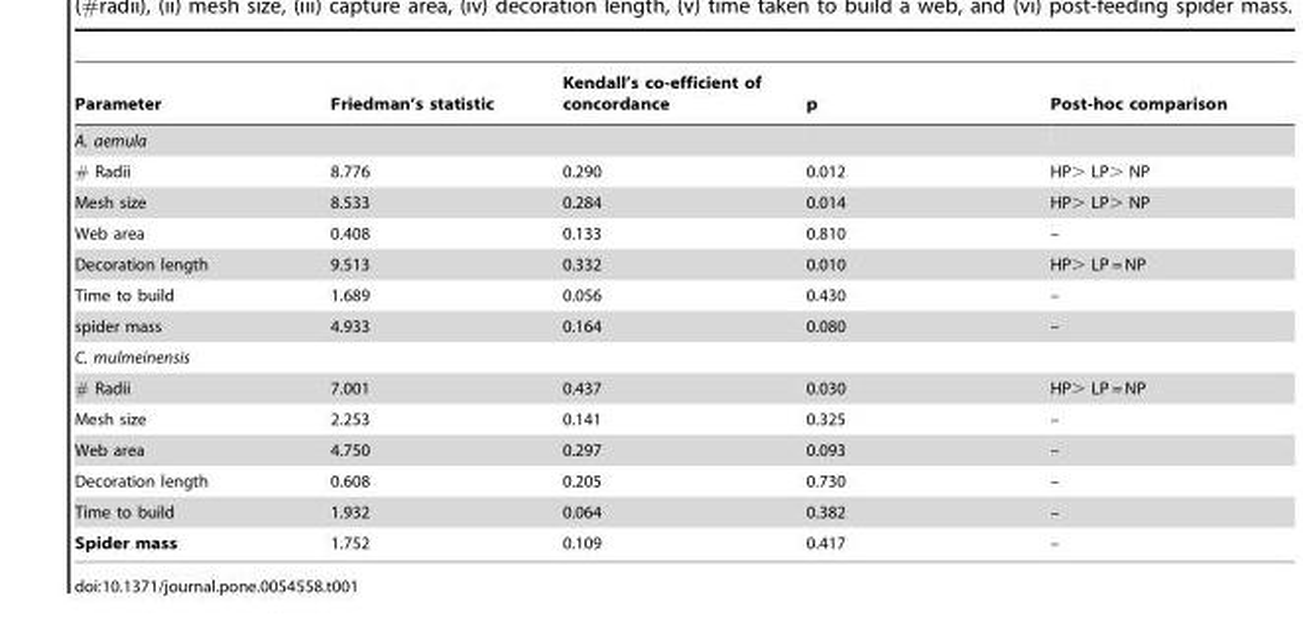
<table><thead><tr><td>Parameter</td><td>Friedman’s statistic</td><td>Kendall’s co-efficient of concordance</td><td>p</td><td>Post-hoc comparison</td></tr></thead><tbody><tr><td colspan="5">A. aemula</td></tr><tr><td># Radii</td><td>8.776</td><td>0.290</td><td>0.012</td><td>HP&gt; LP&gt; NP</td></tr><tr><td>Mesh size</td><td>8.533</td><td>0.284</td><td>0.014</td><td>HP&gt; LP&gt; NP</td></tr><tr><td>Web area</td><td>0.408</td><td>0.133</td><td>0.810</td><td>–</td></tr><tr><td>Decoration length</td><td>9.513</td><td>0.332</td><td>0.010</td><td>HP&gt; LP = NP</td></tr><tr><td>Time to build</td><td>1.689</td><td>0.056</td><td>0.430</td><td>–</td></tr><tr><td>spider mass</td><td>4.933</td><td>0.164</td><td>0.080</td><td>–</td></tr><tr><td colspan="5">C. mulmeinensis</td></tr><tr><td># Radii</td><td>7.001</td><td>0.437</td><td>0.030</td><td>HP&gt; LP = NP</td></tr><tr><td>Mesh size</td><td>2.253</td><td>0.141</td><td>0.325</td><td>–</td></tr><tr><td>Web area</td><td>4.750</td><td>0.297</td><td>0.093</td><td>–</td></tr><tr><td>Decoration length</td><td>0.608</td><td>0.205</td><td>0.730</td><td>–</td></tr><tr><td>Time to build</td><td>1.932</td><td>0.064</td><td>0.382</td><td>–</td></tr><tr><td>Spider mass</td><td>1.752</td><td>0.109</td><td>0.417</td><td>–</td></tr></tbody></table>